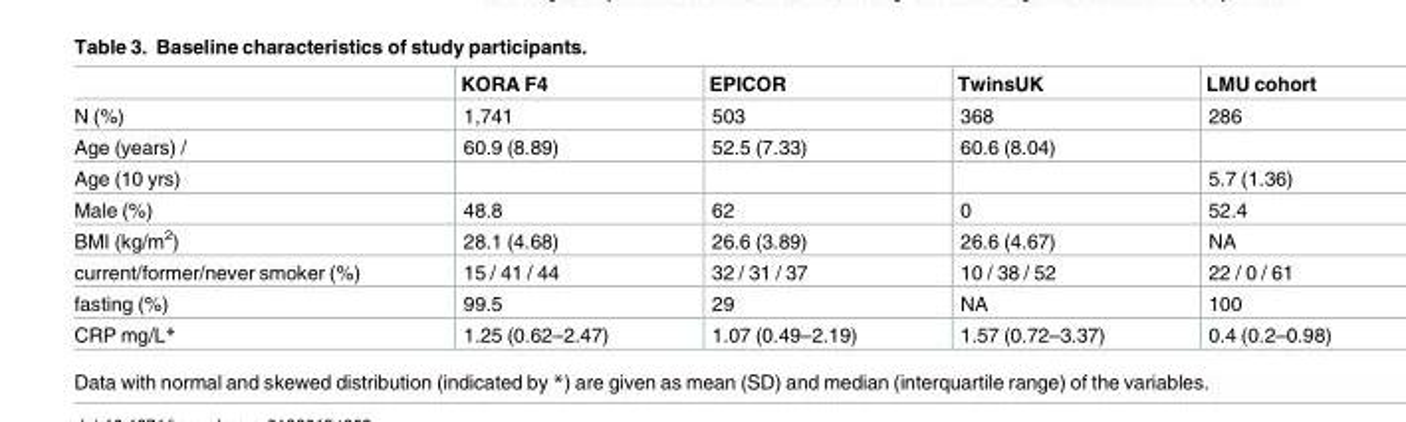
<table><thead><tr><td></td><td>KORA F4</td><td>EPICOR</td><td>TwinsUK</td><td>LMU cohort</td></tr></thead><tbody><tr><td>N (%)</td><td>1,741</td><td>503</td><td>368</td><td>286</td></tr><tr><td>Age (years) /</td><td>60.9 (8.89)</td><td>52.5 (7.33)</td><td>60.6 (8.04)</td><td></td></tr><tr><td>Age (10 yrs)</td><td></td><td></td><td></td><td>5.7 (1.36)</td></tr><tr><td>Male (%)</td><td>48.8</td><td>62</td><td>0</td><td>52.4</td></tr><tr><td>BMI (kg/m<sup>2</sup>)</td><td>28.1 (4.68)</td><td>26.6 (3.89)</td><td>26.6 (4.67)</td><td>NA</td></tr><tr><td>current/former/never smoker (%)</td><td>15 / 41 / 44</td><td>32 / 31 / 37</td><td>10 / 38 / 52</td><td>22 / 0 / 61</td></tr><tr><td>fasting (%)</td><td>99.5</td><td>29</td><td>NA</td><td>100</td></tr><tr><td>CRP mg/L*</td><td>1.25 (0.62–2.47)</td><td>1.07 (0.49–2.19)</td><td>1.57 (0.72–3.37)</td><td>0.4 (0.2–0.98)</td></tr></tbody></table>